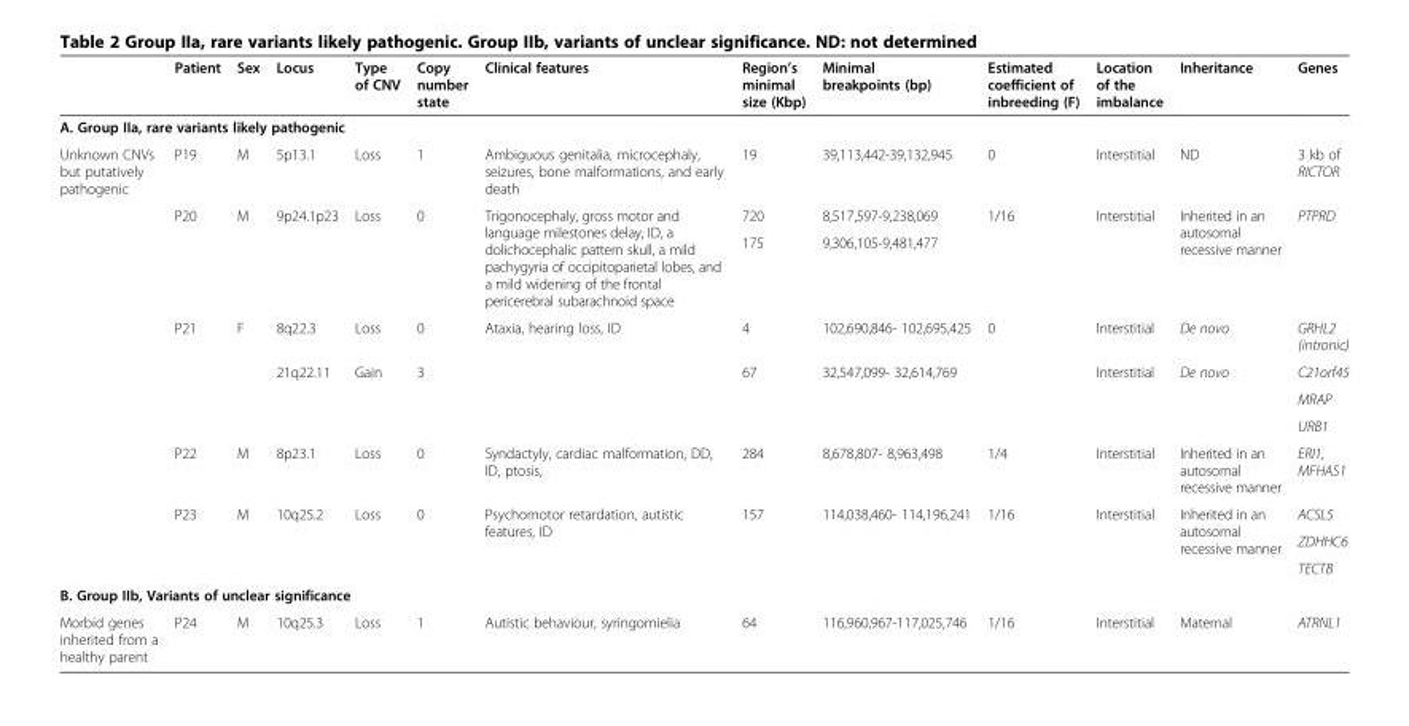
<table><thead><tr><td></td><td>Patient</td><td>Sex</td><td>Locus</td><td>Type of CNV</td><td>Copy number state</td><td>Clinical features</td><td>Region’s minimal size (Kbp)</td><td>Minimal breakpoints (bp)</td><td>Estimated coefficient of inbreeding (F)</td><td>Location of the imbalance</td><td>Inheritance</td><td>Genes</td></tr></thead><tbody><tr><td colspan="13">A. Group IIa, rare variants likely pathogenic</td></tr><tr><td rowspan="11">Unknown CNVs but putatively pathogenic</td><td>P19</td><td>M</td><td>5p13.1</td><td>Loss</td><td>1</td><td>Ambiguous genitalia, microcephaly, seizures, bone malformations, and early death</td><td>19</td><td>39,113,442-39,132,945</td><td>0</td><td>Interstitial</td><td>ND</td><td>3 kb of RICTOR</td></tr><tr><td rowspan="2">P20</td><td rowspan="2">M</td><td rowspan="2">9p24.1p23</td><td rowspan="2">Loss</td><td rowspan="2">0</td><td rowspan="2">Trigonocephaly, gross motor and language milestones delay, ID, a dolichocephalic pattern skull, a mild pachygyria of occipitoparietal lobes, and a mild widening of the frontal pericerebral subarachnoid space</td><td>720</td><td>8,517,597-9,238,069</td><td rowspan="2">1/16</td><td rowspan="2">Interstitial</td><td rowspan="2">Inherited in an autosomal recessive manner</td><td rowspan="2">PTPRD</td></tr><tr><td>175</td><td>9,306,105-9,481,477</td></tr><tr><td rowspan="4">P21</td><td rowspan="4">F</td><td>8q22.3</td><td>Loss</td><td>0</td><td rowspan="4">Ataxia, hearing loss, ID</td><td>4</td><td>102,690,846- 102,695,425</td><td rowspan="4">0</td><td>Interstitial</td><td>De novo</td><td>GRHL2 (intronic)</td></tr><tr><td rowspan="3">21q22.11</td><td rowspan="3">Gain</td><td rowspan="3">3</td><td rowspan="3">67</td><td rowspan="3">32,547,099- 32,614,769</td><td rowspan="3">Interstitial</td><td rowspan="3">De novo</td><td>C21orf45</td></tr><tr><td>MRAP</td></tr><tr><td>URB1</td></tr><tr><td>P22</td><td>M</td><td>8p23.1</td><td>Loss</td><td>0</td><td>Syndactyly, cardiac malformation, DD, ID, ptosis,</td><td>284</td><td>8,678,807- 8,963,498</td><td>1/4</td><td>Interstitial</td><td>Inherited in an autosomal recessive manner</td><td>ERI1, MFHAS1</td></tr><tr><td rowspan="3">P23</td><td rowspan="3">M</td><td rowspan="3">10q25.2</td><td rowspan="3">Loss</td><td rowspan="3">0</td><td rowspan="3">Psychomotor retardation, autistic features, ID</td><td rowspan="3">157</td><td rowspan="3">114,038,460- 114,196,241</td><td rowspan="3">1/16</td><td rowspan="3">Interstitial</td><td rowspan="3">Inherited in an autosomal recessive manner</td><td>ACSL5</td></tr><tr><td>ZDHHC6</td></tr><tr><td>TECTB</td></tr><tr><td colspan="13">B. Group IIb, Variants of unclear significance</td></tr><tr><td>Morbid genes inherited from a healthy parent</td><td>P24</td><td>M</td><td>10q25.3</td><td>Loss</td><td>1</td><td>Autistic behaviour, syringomielia</td><td>64</td><td>116,960,967-117,025,746</td><td>1/16</td><td>Interstitial</td><td>Maternal</td><td>ATRNL1</td></tr></tbody></table>